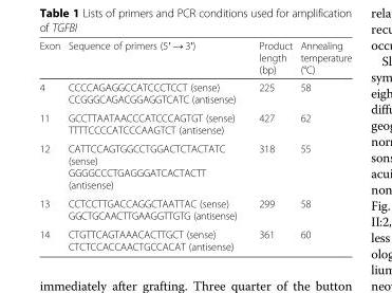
<table><thead><tr><td>Exon</td><td>Sequence of primers (5′ → 3′)</td><td>Product length (bp)</td><td>Annealing temperature (°C)</td></tr></thead><tbody><tr><td>4</td><td>CCCCAGAGGCCATCCCTCCT (sense) CCGGGCAGACGGAGGTCATC (antisense)</td><td>225</td><td>58</td></tr><tr><td>11</td><td>GCCTTAATAACCCATCCCAGTGT (sense) TTTTCCCCATCCCAAGTCT (antisense)</td><td>427</td><td>62</td></tr><tr><td>12</td><td>CATTCCAGTGGCCTGGACTCTACTATC (sense) GGGGCCCTGAGGGATCACTACTT (antisense)</td><td>318</td><td>55</td></tr><tr><td>13</td><td>CCTCCTTGACCAGGCTAATTAC (sense) GGCTGCAACTTGAAGGTTGTG (antisense)</td><td>299</td><td>58</td></tr><tr><td>14</td><td>CTGTTCAGTAAACACTTGCT (sense) CTCTCCACCAACTGCCACAT (antisense)</td><td>361</td><td>60</td></tr></tbody></table>